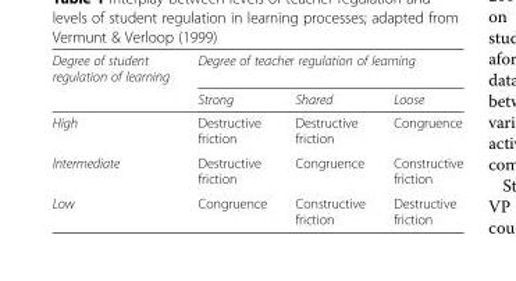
<table><thead><tr><td rowspan="2">Degree of student regulation of learning</td><td colspan="3">Degree of teacher regulation of learning</td></tr><tr><td>Strong</td><td>Shared</td><td>Loose</td></tr></thead><tbody><tr><td>High</td><td>Destructive friction</td><td>Destructive friction</td><td>Congruence</td></tr><tr><td>Intermediate</td><td>Destructive friction</td><td>Congruence</td><td>Constructive friction</td></tr><tr><td>Low</td><td>Congruence</td><td>Constructive friction</td><td>Destructive friction</td></tr></tbody></table>